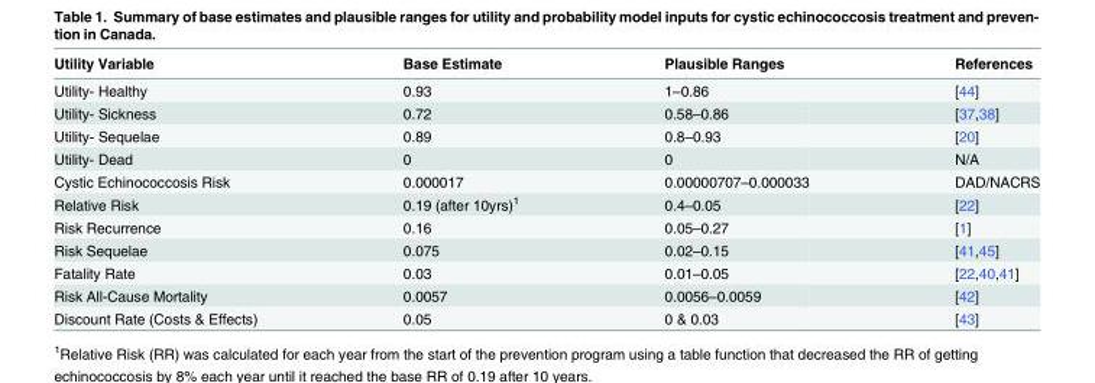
<table><thead><tr><td>Utility Variable</td><td>Base Estimate</td><td>Plausible Ranges</td><td>References</td></tr></thead><tbody><tr><td>Utility- Healthy</td><td>0.93</td><td>1–0.86</td><td>[44]</td></tr><tr><td>Utility- Sickness</td><td>0.72</td><td>0.58–0.86</td><td>[37,38]</td></tr><tr><td>Utility- Sequelae</td><td>0.89</td><td>0.8–0.93</td><td>[20]</td></tr><tr><td>Utility- Dead</td><td>0</td><td>0</td><td>N/A</td></tr><tr><td>Cystic Echinococcosis Risk</td><td>0.000017</td><td>0.00000707–0.000033</td><td>DAD/NACRS</td></tr><tr><td>Relative Risk</td><td>0.19 (after 10yrs)<sup>1</sup></td><td>0.4–0.05</td><td>[22]</td></tr><tr><td>Risk Recurrence</td><td>0.16</td><td>0.05–0.27</td><td>[1]</td></tr><tr><td>Risk Sequelae</td><td>0.075</td><td>0.02–0.15</td><td>[41,45]</td></tr><tr><td>Fatality Rate</td><td>0.03</td><td>0.01–0.05</td><td>[22,40,41]</td></tr><tr><td>Risk All-Cause Mortality</td><td>0.0057</td><td>0.0056–0.0059</td><td>[42]</td></tr><tr><td>Discount Rate (Costs &amp; Effects)</td><td>0.05</td><td>0 &amp; 0.03</td><td>[43]</td></tr></tbody></table>